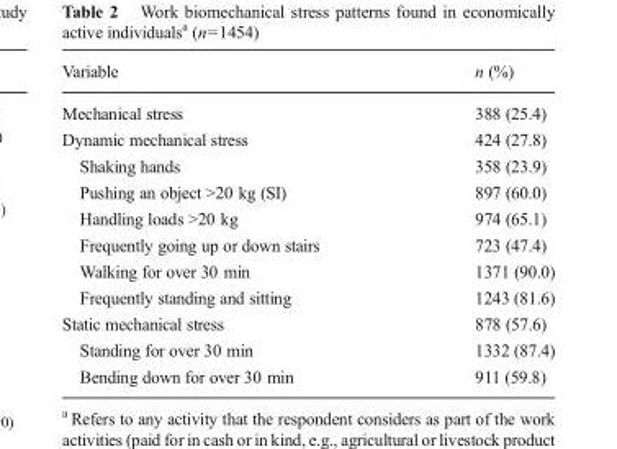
<table><thead><tr><td>Variable</td><td>n (%)</td></tr></thead><tbody><tr><td>Mechanical stress</td><td>388 (25.4)</td></tr><tr><td>Dynamic mechanical stress</td><td>424 (27.8)</td></tr><tr><td>Shaking hands</td><td>358 (23.9)</td></tr><tr><td>Pushing an object &gt;20 kg (SI)</td><td>897 (60.0)</td></tr><tr><td>Handling loads &gt;20 kg</td><td>974 (65.1)</td></tr><tr><td>Frequently going up or down stairs</td><td>723 (47.4)</td></tr><tr><td>Walking for over 30 min</td><td>1371 (90.0)</td></tr><tr><td>Frequently standing and sitting</td><td>1243 (81.6)</td></tr><tr><td>Static mechanical stress</td><td>878 (57.6)</td></tr><tr><td>Standing for over 30 min</td><td>1332 (87.4)</td></tr><tr><td>Bending down for over 30 min</td><td>911 (59.8)</td></tr></tbody></table>